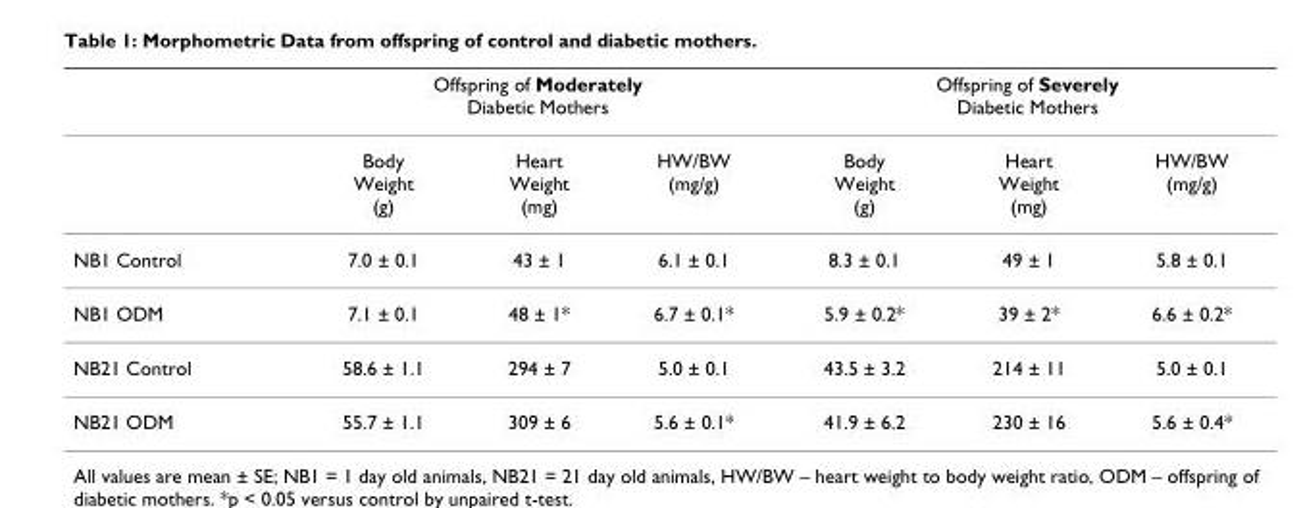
<table><thead><tr><td rowspan="2"></td><td colspan="3">Offspring of Moderately Diabetic Mothers</td><td colspan="3">Offspring of Severely Diabetic Mothers</td></tr><tr><td>Body Weight (g)</td><td>Heart Weight (mg)</td><td>HW/BW (mg/g)</td><td>Body Weight (g)</td><td>Heart Weight (mg)</td><td>HW/BW (mg/g)</td></tr></thead><tbody><tr><td>NB1 Control</td><td>7.0 ± 0.1</td><td>43 ± 1</td><td>6.1 ± 0.1</td><td>8.3 ± 0.1</td><td>49 ± 1</td><td>5.8 ± 0.1</td></tr><tr><td>NB1 ODM</td><td>7.1 ± 0.1</td><td>48 ± 1*</td><td>6.7 ± 0.1*</td><td>5.9 ± 0.2*</td><td>39 ± 2*</td><td>6.6 ± 0.2*</td></tr><tr><td>NB21 Control</td><td>58.6 ± 1.1</td><td>294 ± 7</td><td>5.0 ± 0.1</td><td>43.5 ± 3.2</td><td>214 ± 11</td><td>5.0 ± 0.1</td></tr><tr><td>NB21 ODM</td><td>55.7 ± 1.1</td><td>309 ± 6</td><td>5.6 ± 0.1*</td><td>41.9 ± 6.2</td><td>230 ± 16</td><td>5.6 ± 0.4*</td></tr></tbody></table>